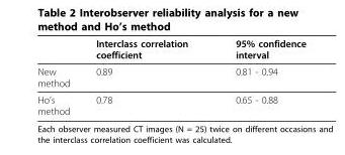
<table><thead><tr><td></td><td>Interclass correlation coefficient</td><td>95% confidence interval</td></tr></thead><tbody><tr><td>New method</td><td>0.89</td><td>0.81 - 0.94</td></tr><tr><td>Ho’s method</td><td>0.78</td><td>0.65 - 0.88</td></tr></tbody></table>